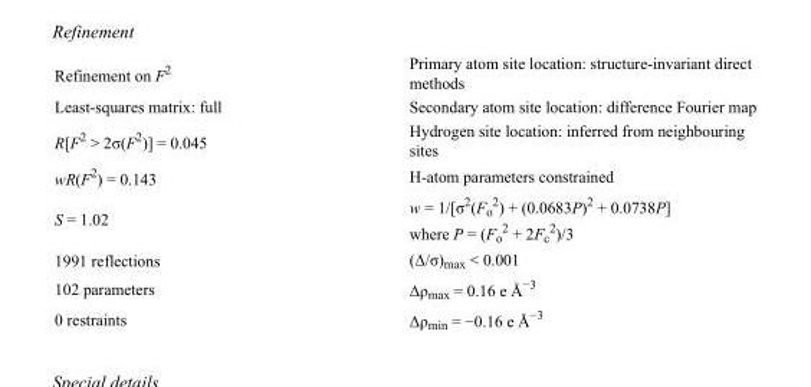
<table><tbody><tr><td>Refinement on F<sup>2</sup></td><td>Primary atom site location: structure-invariant direct methods</td></tr><tr><td>Least-squares matrix: full</td><td>Secondary atom site location: difference Fourier map</td></tr><tr><td>R[F<sup>2</sup> &gt; 2σ(F<sup>2</sup>)] = 0.045</td><td>Hydrogen site location: inferred from neighbouring sites</td></tr><tr><td>wR(F<sup>2</sup>) = 0.143</td><td>H-atom parameters constrained</td></tr><tr><td>S = 1.02</td><td>w = 1/[σ<sup>2</sup>(F<sub>o</sub> <sup>2</sup>) + (0.0683P)<sup>2</sup> + 0.0738P] where P = (F<sub>o</sub> <sup>2</sup> + 2F<sub>c</sub> <sup>2</sup>)/3</td></tr><tr><td>1991 reflections</td><td>(Δ/σ)<sub>max</sub> &lt; 0.001</td></tr><tr><td>102 parameters</td><td>Δρ<sub>max</sub> = 0.16 e Å<sup>−3</sup></td></tr><tr><td>0 restraints</td><td>Δρ<sub>min</sub> = −0.16 e Å<sup>−3</sup></td></tr></tbody></table>